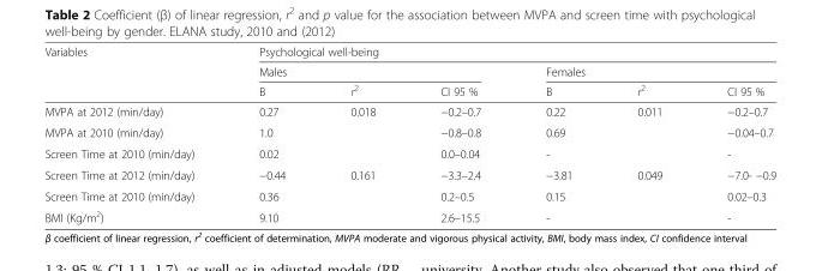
<table><thead><tr><td rowspan="3">Variables</td><td colspan="6">Psychological well-being</td></tr><tr><td colspan="3">Males</td><td colspan="3">Females</td></tr><tr><td>B</td><td>r<sup>2</sup></td><td>CI 95 %</td><td>B</td><td>r<sup>2</sup></td><td>CI 95 %</td></tr></thead><tbody><tr><td>MVPA at 2012 (min/day)</td><td>0.27</td><td>0.018</td><td>−0.2–0.7</td><td>0.22</td><td>0.011</td><td>−0.2–0.7</td></tr><tr><td>MVPA at 2010 (min/day)</td><td>1.0</td><td></td><td>−0.8–0.8</td><td>0.69</td><td></td><td>−0.04–0.7</td></tr><tr><td>Screen Time at 2010 (min/day)</td><td>0.02</td><td></td><td>0.0–0.04</td><td>-</td><td></td><td>-</td></tr><tr><td>Screen Time at 2012 (min/day)</td><td>−0.44</td><td>0.161</td><td>−3.3–2.4</td><td>−3.81</td><td>0.049</td><td>−7.0- −0.9</td></tr><tr><td>Screen Time at 2010 (min/day)</td><td>0.36</td><td></td><td>0.2–0.5</td><td>0.15</td><td></td><td>0.02–0.3</td></tr><tr><td>BMI (Kg/m<sup>2</sup>)</td><td>9.10</td><td></td><td>2.6–15.5</td><td>-</td><td></td><td>-</td></tr></tbody></table>